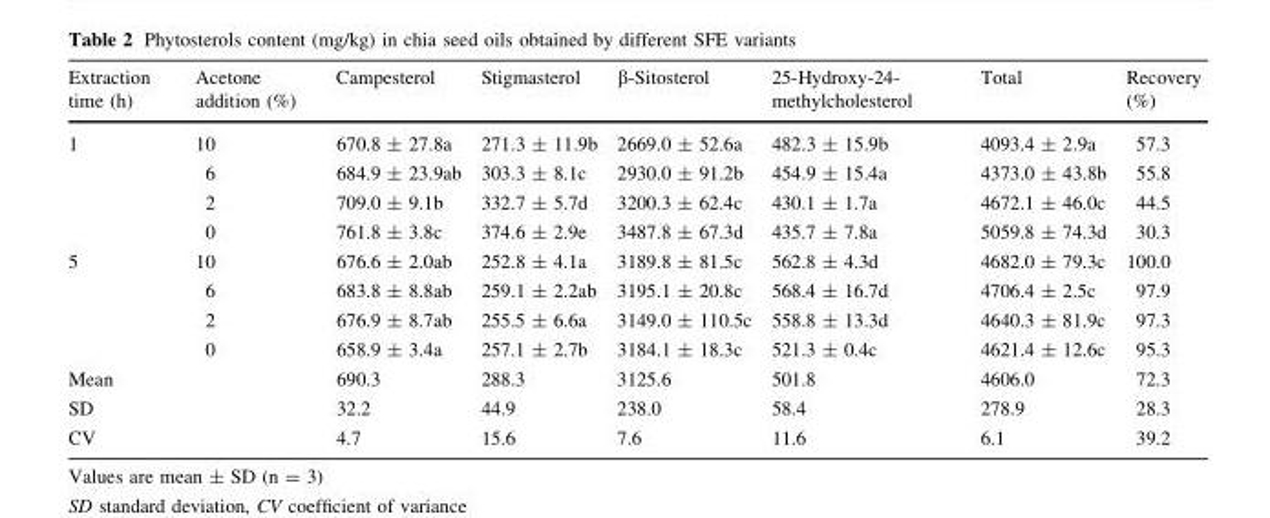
<table><thead><tr><td>Extraction time (h)</td><td>Acetone addition (%)</td><td>Campesterol</td><td>Stigmasterol</td><td>β-Sitosterol</td><td>25-Hydroxy-24- methylcholesterol</td><td>Total</td><td>Recovery (%)</td></tr></thead><tbody><tr><td rowspan="4">1</td><td>10</td><td>670.8 ± 27.8a</td><td>271.3 ± 11.9b</td><td>2669.0 ± 52.6a</td><td>482.3 ± 15.9b</td><td>4093.4 ± 2.9a</td><td>57.3</td></tr><tr><td>6</td><td>684.9 ± 23.9ab</td><td>303.3 ± 8.1c</td><td>2930.0 ± 91.2b</td><td>454.9 ± 15.4a</td><td>4373.0 ± 43.8b</td><td>55.8</td></tr><tr><td>2</td><td>709.0 ± 9.1b</td><td>332.7 ± 5.7d</td><td>3200.3 ± 62.4c</td><td>430.1 ± 1.7a</td><td>4672.1 ± 46.0c</td><td>44.5</td></tr><tr><td>0</td><td>761.8 ± 3.8c</td><td>374.6 ± 2.9e</td><td>3487.8 ± 67.3d</td><td>435.7 ± 7.8a</td><td>5059.8 ± 74.3d</td><td>30.3</td></tr><tr><td rowspan="4">5</td><td>10</td><td>676.6 ± 2.0ab</td><td>252.8 ± 4.1a</td><td>3189.8 ± 81.5c</td><td>562.8 ± 4.3d</td><td>4682.0 ± 79.3c</td><td>100.0</td></tr><tr><td>6</td><td>683.8 ± 8.8ab</td><td>259.1 ± 2.2ab</td><td>3195.1 ± 20.8c</td><td>568.4 ± 16.7d</td><td>4706.4 ± 2.5c</td><td>97.9</td></tr><tr><td>2</td><td>676.9 ± 8.7ab</td><td>255.5 ± 6.6a</td><td>3149.0 ± 110.5c</td><td>558.8 ± 13.3d</td><td>4640.3 ± 81.9c</td><td>97.3</td></tr><tr><td>0</td><td>658.9 ± 3.4a</td><td>257.1 ± 2.7b</td><td>3184.1 ± 18.3c</td><td>521.3 ± 0.4c</td><td>4621.4 ± 12.6c</td><td>95.3</td></tr><tr><td colspan="2">Mean</td><td>690.3</td><td>288.3</td><td>3125.6</td><td>501.8</td><td>4606.0</td><td>72.3</td></tr><tr><td colspan="2">SD</td><td>32.2</td><td>44.9</td><td>238.0</td><td>58.4</td><td>278.9</td><td>28.3</td></tr><tr><td colspan="2">CV</td><td>4.7</td><td>15.6</td><td>7.6</td><td>11.6</td><td>6.1</td><td>39.2</td></tr></tbody></table>